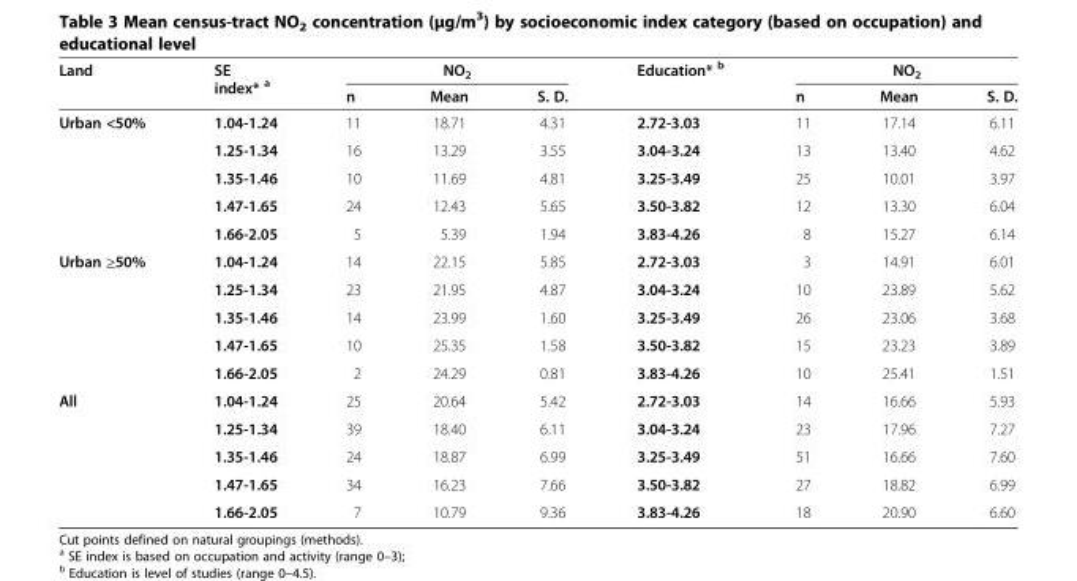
<table><thead><tr><td rowspan="2">Land</td><td rowspan="2">SE index* <sup>a</sup></td><td colspan="3">NO<sub>2</sub></td><td rowspan="2">Education* <sup>b</sup></td><td colspan="3">NO<sub>2</sub></td></tr><tr><td>n</td><td>Mean</td><td>S. D.</td><td>n</td><td>Mean</td><td>S. D.</td></tr></thead><tbody><tr><td rowspan="5">Urban &lt;50%</td><td>1.04-1.24</td><td>11</td><td>18.71</td><td>4.31</td><td>2.72-3.03</td><td>11</td><td>17.14</td><td>6.11</td></tr><tr><td>1.25-1.34</td><td>16</td><td>13.29</td><td>3.55</td><td>3.04-3.24</td><td>13</td><td>13.40</td><td>4.62</td></tr><tr><td>1.35-1.46</td><td>10</td><td>11.69</td><td>4.81</td><td>3.25-3.49</td><td>25</td><td>10.01</td><td>3.97</td></tr><tr><td>1.47-1.65</td><td>24</td><td>12.43</td><td>5.65</td><td>3.50-3.82</td><td>12</td><td>13.30</td><td>6.04</td></tr><tr><td>1.66-2.05</td><td>5</td><td>5.39</td><td>1.94</td><td>3.83-4.26</td><td>8</td><td>15.27</td><td>6.14</td></tr><tr><td rowspan="5">Urban ≥50%</td><td>1.04-1.24</td><td>14</td><td>22.15</td><td>5.85</td><td>2.72-3.03</td><td>3</td><td>14.91</td><td>6.01</td></tr><tr><td>1.25-1.34</td><td>23</td><td>21.95</td><td>4.87</td><td>3.04-3.24</td><td>10</td><td>23.89</td><td>5.62</td></tr><tr><td>1.35-1.46</td><td>14</td><td>23.99</td><td>1.60</td><td>3.25-3.49</td><td>26</td><td>23.06</td><td>3.68</td></tr><tr><td>1.47-1.65</td><td>10</td><td>25.35</td><td>1.58</td><td>3.50-3.82</td><td>15</td><td>23.23</td><td>3.89</td></tr><tr><td>1.66-2.05</td><td>2</td><td>24.29</td><td>0.81</td><td>3.83-4.26</td><td>10</td><td>25.41</td><td>1.51</td></tr><tr><td rowspan="5">All</td><td>1.04-1.24</td><td>25</td><td>20.64</td><td>5.42</td><td>2.72-3.03</td><td>14</td><td>16.66</td><td>5.93</td></tr><tr><td>1.25-1.34</td><td>39</td><td>18.40</td><td>6.11</td><td>3.04-3.24</td><td>23</td><td>17.96</td><td>7.27</td></tr><tr><td>1.35-1.46</td><td>24</td><td>18.87</td><td>6.99</td><td>3.25-3.49</td><td>51</td><td>16.66</td><td>7.60</td></tr><tr><td>1.47-1.65</td><td>34</td><td>16.23</td><td>7.66</td><td>3.50-3.82</td><td>27</td><td>18.82</td><td>6.99</td></tr><tr><td>1.66-2.05</td><td>7</td><td>10.79</td><td>9.36</td><td>3.83-4.26</td><td>18</td><td>20.90</td><td>6.60</td></tr></tbody></table>